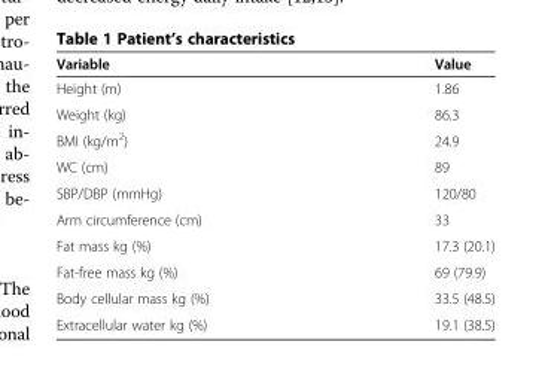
<table><thead><tr><td>Variable</td><td>Value</td></tr></thead><tbody><tr><td>Height (m)</td><td>1.86</td></tr><tr><td>Weight (kg)</td><td>86.3</td></tr><tr><td>BMI (kg/m<sup>2</sup>)</td><td>24.9</td></tr><tr><td>WC (cm)</td><td>89</td></tr><tr><td>SBP/DBP (mmHg)</td><td>120/80</td></tr><tr><td>Arm circumference (cm)</td><td>33</td></tr><tr><td>Fat mass kg (%)</td><td>17.3 (20.1)</td></tr><tr><td>Fat-free mass kg (%)</td><td>69 (79.9)</td></tr><tr><td>Body cellular mass kg (%)</td><td>33.5 (48.5)</td></tr><tr><td>Extracellular water kg (%)</td><td>19.1 (38.5)</td></tr></tbody></table>